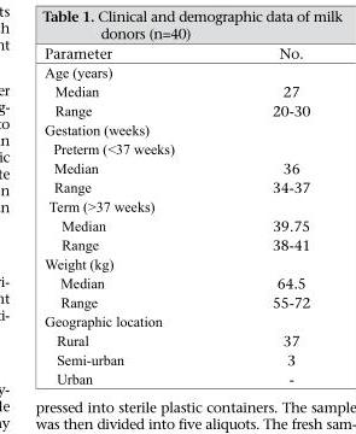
<table><thead><tr><td>Parameter</td><td>No.</td></tr></thead><tbody><tr><td colspan="2">Age (years)</td></tr><tr><td>Median</td><td>27</td></tr><tr><td>Range</td><td>20-30</td></tr><tr><td colspan="2">Gestation (weeks)</td></tr><tr><td colspan="2">Preterm (&lt;37 weeks)</td></tr><tr><td>Median</td><td>36</td></tr><tr><td>Range</td><td>34-37</td></tr><tr><td colspan="2">Term (&gt;37 weeks)</td></tr><tr><td>Median</td><td>39.75</td></tr><tr><td>Range</td><td>38-41</td></tr><tr><td colspan="2">Weight (kg)</td></tr><tr><td>Median</td><td>64.5</td></tr><tr><td>Range</td><td>55-72</td></tr><tr><td colspan="2">Geographic location</td></tr><tr><td>Rural</td><td>37</td></tr><tr><td>Semi-urban</td><td>3</td></tr><tr><td>Urban</td><td>-</td></tr></tbody></table>